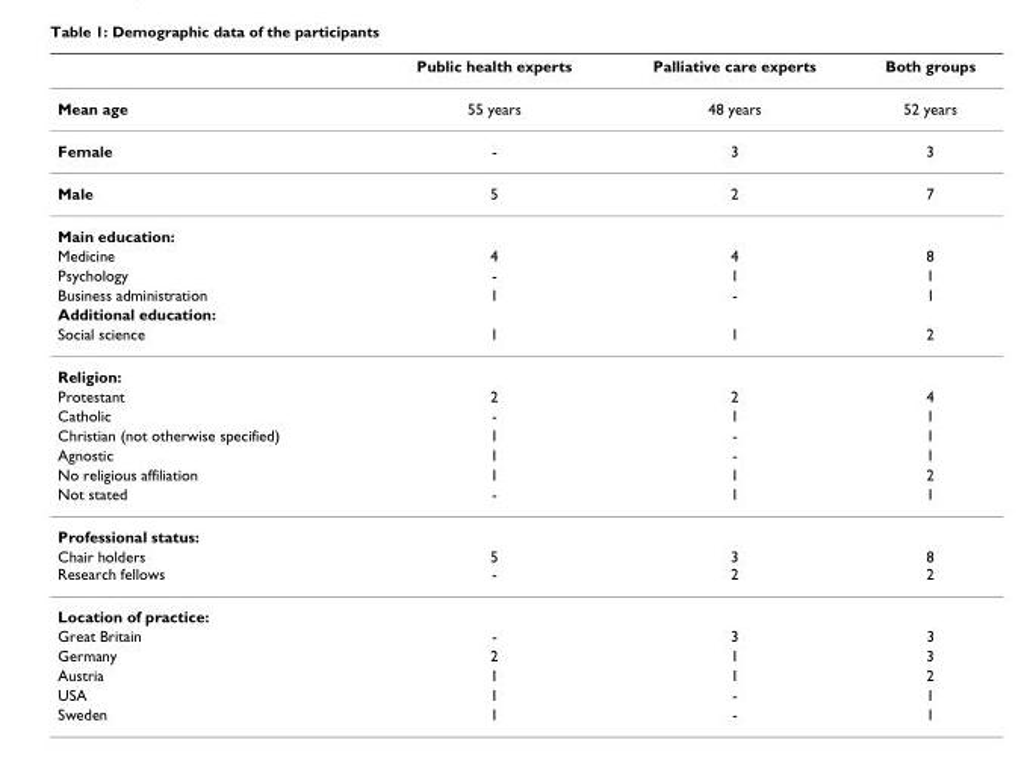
<table><thead><tr><td></td><td>Public health experts</td><td>Palliative care experts</td><td>Both groups</td></tr></thead><tbody><tr><td>Mean age</td><td>55 years</td><td>48 years</td><td>52 years</td></tr><tr><td>Female</td><td>-</td><td>3</td><td>3</td></tr><tr><td>Male</td><td>5</td><td>2</td><td>7</td></tr><tr><td colspan="4">Main education:</td></tr><tr><td>Medicine</td><td>4</td><td>4</td><td>8</td></tr><tr><td>Psychology</td><td>-</td><td>1</td><td>1</td></tr><tr><td>Business administration</td><td>1</td><td>-</td><td>1</td></tr><tr><td colspan="4">Additional education:</td></tr><tr><td>Social science</td><td>1</td><td>1</td><td>2</td></tr><tr><td colspan="4">Religion:</td></tr><tr><td>Protestant</td><td>2</td><td>2</td><td>4</td></tr><tr><td>Catholic</td><td>-</td><td>1</td><td>1</td></tr><tr><td>Christian (not otherwise specified)</td><td>1</td><td>-</td><td>1</td></tr><tr><td>Agnostic</td><td>1</td><td>-</td><td>1</td></tr><tr><td>No religious affiliation</td><td>1</td><td>1</td><td>2</td></tr><tr><td>Not stated</td><td>-</td><td>1</td><td>1</td></tr><tr><td colspan="4">Professional status:</td></tr><tr><td>Chair holders Research fellows</td><td>5 -</td><td>3 2</td><td>8 2</td></tr><tr><td colspan="4">Location of practice:</td></tr><tr><td>Great Britain</td><td>-</td><td>3</td><td>3</td></tr><tr><td>Germany</td><td>2</td><td>1</td><td>3</td></tr><tr><td>Austria</td><td>1</td><td>1</td><td>2</td></tr><tr><td>USA</td><td>1</td><td>-</td><td>1</td></tr><tr><td>Sweden</td><td>1</td><td>-</td><td>1</td></tr></tbody></table>